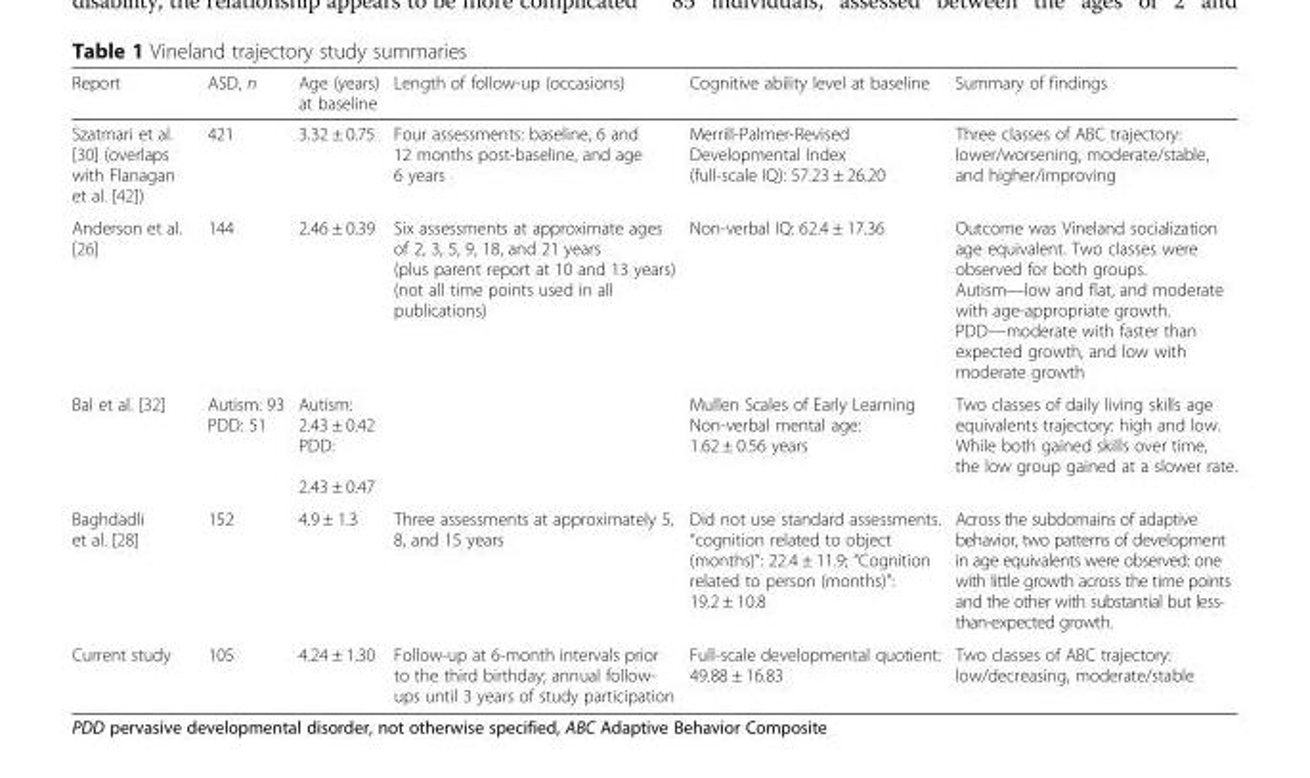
<table><thead><tr><td>Report</td><td>ASD, n</td><td>Age (years) at baseline</td><td>Length of follow-up (occasions)</td><td>Cognitive ability level at baseline</td><td>Summary of findings</td></tr></thead><tbody><tr><td>Szatmari et al. [30] (overlaps with Flanagan et al. [42])</td><td>421</td><td>3.32 ± 0.75</td><td>Four assessments: baseline, 6 and 12 months post-baseline, and age 6 years</td><td>Merrill-Palmer-Revised Developmental Index (full-scale IQ): 57.23 ± 26.20</td><td>Three classes of ABC trajectory: lower/worsening, moderate/stable, and higher/improving</td></tr><tr><td>Anderson et al. [26]</td><td>144</td><td>2.46 ± 0.39</td><td rowspan="2">Six assessments at approximate ages of 2, 3, 5, 9, 18, and 21 years (plus parent report at 10 and 13 years) (not all time points used in all publications)</td><td>Non-verbal IQ: 62.4 ± 17.36</td><td>Outcome was Vineland socialization age equivalent. Two classes were observed for both groups. Autism—low and flat, and moderate with age-appropriate growth. PDD—moderate with faster than expected growth, and low with moderate growth</td></tr><tr><td>Bal et al. [32]</td><td>Autism: 93 PDD: 51</td><td>Autism: 2.43 ± 0.42 PDD: 2.43 ± 0.47</td><td>Mullen Scales of Early Learning Non-verbal mental age: 1.62 ± 0.56 years</td><td>Two classes of daily living skills age equivalents trajectory: high and low. While both gained skills over time, the low group gained at a slower rate.</td></tr><tr><td>Baghdadli et al. [28]</td><td>152</td><td>4.9 ± 1.3</td><td>Three assessments at approximately 5, 8, and 15 years</td><td>Did not use standard assessments. “cognition related to object (months)”: 22.4 ± 11.9; “Cognition related to person (months)”: 19.2 ± 10.8</td><td>Across the subdomains of adaptive behavior, two patterns of development in age equivalents were observed: one with little growth across the time points and the other with substantial but less- than-expected growth.</td></tr><tr><td>Current study</td><td>105</td><td>4.24 ± 1.30</td><td>Follow-up at 6-month intervals prior to the third birthday; annual follow- ups until 3 years of study participation</td><td>Full-scale developmental quotient: 49.88 ± 16.83</td><td>Two classes of ABC trajectory: low/decreasing, moderate/stable</td></tr></tbody></table>